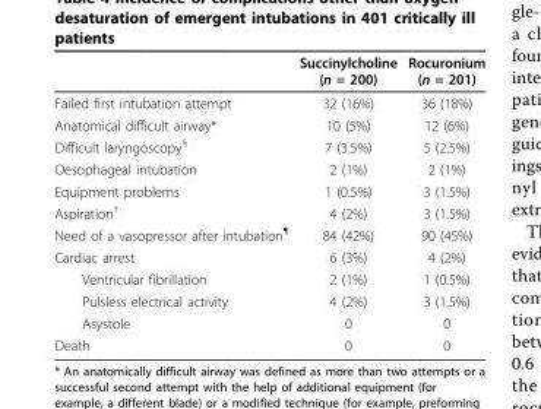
<table><thead><tr><td></td><td>Succinylcholine (n = 200)</td><td>Rocuronium (n = 201)</td></tr></thead><tbody><tr><td>Failed first intubation attempt</td><td>32 (16%)</td><td>36 (18%)</td></tr><tr><td>Anatomical difficult airway*</td><td>10 (5%)</td><td>12 (6%)</td></tr><tr><td>Difficult laryngoscopy<sup>§</sup></td><td>7 (3.5%)</td><td>5 (2.5%)</td></tr><tr><td>Oesophageal intubation</td><td>2 (1%)</td><td>2 (1%)</td></tr><tr><td>Equipment problems</td><td>1 (0.5%)</td><td>3 (1.5%)</td></tr><tr><td>Aspiration<sup>†</sup></td><td>4 (2%)</td><td>3 (1.5%)</td></tr><tr><td>Need of a vasopressor after intubation<sup>¶</sup></td><td>84 (42%)</td><td>90 (45%)</td></tr><tr><td>Cardiac arrest</td><td>6 (3%)</td><td>4 (2%)</td></tr><tr><td>Ventricular fibrillation</td><td>2 (1%)</td><td>1 (0.5%)</td></tr><tr><td>Pulsless electrical activity</td><td>4 (2%)</td><td>3 (1.5%)</td></tr><tr><td>Asystole</td><td>0</td><td>0</td></tr><tr><td>Death</td><td>0</td><td>0</td></tr></tbody></table>